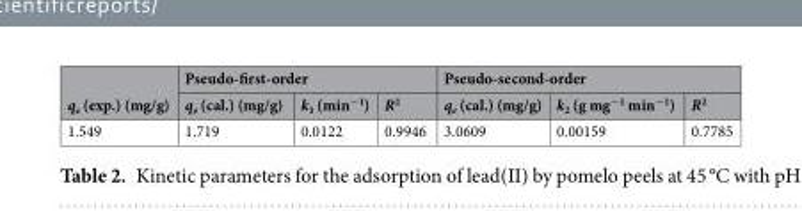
<table><thead><tr><td rowspan="2">q<sub>e</sub> (exp.) (mg/g)</td><td colspan="3">Pseudo-first-order</td><td colspan="3">Pseudo-second-order</td></tr><tr><td>q<sub>e</sub> (cal.) (mg/g)</td><td>k<sub>1</sub> (min<sup>−1</sup>)</td><td>R<sup>2</sup></td><td>q<sub>e</sub> (cal.) (mg/g)</td><td>k<sub>2</sub> (g mg<sup>−1</sup> min<sup>−1</sup>)</td><td>R<sup>2</sup></td></tr></thead><tbody><tr><td>1.549</td><td>1.719</td><td>0.0122</td><td>0.9946</td><td>3.0609</td><td>0.00159</td><td>0.7785</td></tr></tbody></table>